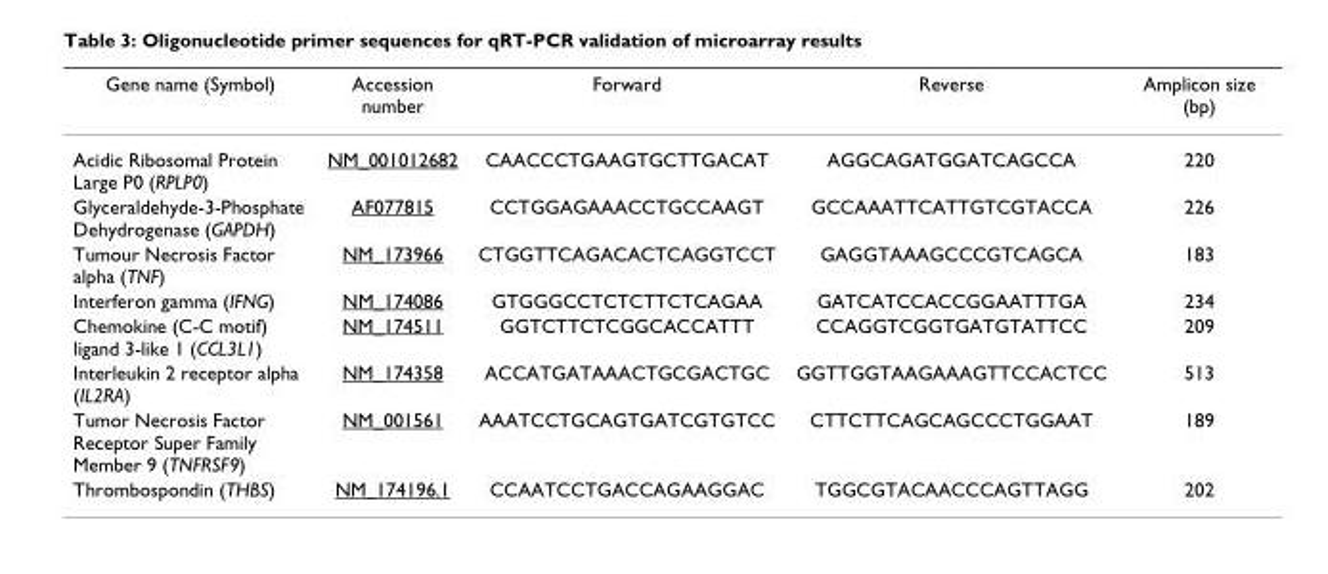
<table><thead><tr><td>Gene name (Symbol)</td><td>Accession number</td><td>Forward</td><td>Reverse</td><td>Amplicon size (bp)</td></tr></thead><tbody><tr><td>Acidic Ribosomal Protein Large P0 (RPLP0)</td><td>NM_001012682</td><td>CAACCCTGAAGTGCTTGACAT</td><td>AGGCAGATGGATCAGCCA</td><td>220</td></tr><tr><td>Glyceraldehyde-3-Phosphate Dehydrogenase (GAPDH)</td><td>AF077815</td><td>CCTGGAGAAACCTGCCAAGT</td><td>GCCAAATTCATTGTCGTACCA</td><td>226</td></tr><tr><td>Tumour Necrosis Factor alpha (TNF)</td><td>NM_173966</td><td>CTGGTTCAGACACTCAGGTCCT</td><td>GAGGTAAAGCCCGTCAGCA</td><td>183</td></tr><tr><td>Interferon gamma (IFNG)</td><td>NM_174086</td><td>GTGGGCCTCTCTTCTCAGAA</td><td>GATCATCCACCGGAATTTGA</td><td>234</td></tr><tr><td>Chemokine (C-C motif) ligand 3-like 1 (CCL3L1)</td><td>NM_174511</td><td>GGTCTTCTCGGCACCATTT</td><td>CCAGGTCGGTGATGTATTCC</td><td>209</td></tr><tr><td>Interleukin 2 receptor alpha (IL2RA)</td><td>NM_174358</td><td>ACCATGATAAACTGCGACTGC</td><td>GGTTGGTAAGAAAGTTCCACTCC</td><td>513</td></tr><tr><td>Tumor Necrosis Factor Receptor Super Family Member 9 (TNFRSF9)</td><td>NM_001561</td><td>AAATCCTGCAGTGATCGTGTCC</td><td>CTTCTTCAGCAGCCCTGGAAT</td><td>189</td></tr><tr><td>Thrombospondin (THBS)</td><td>NM_174196.1</td><td>CCAATCCTGACCAGAAGGAC</td><td>TGGCGTACAACCCAGTTAGG</td><td>202</td></tr></tbody></table>